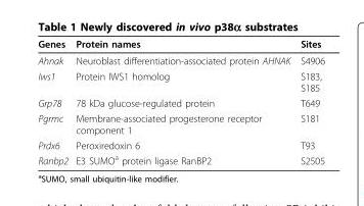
<table><thead><tr><td>Genes</td><td>Protein names</td><td>Sites</td></tr></thead><tbody><tr><td>Ahnak</td><td>Neuroblast differentiation-associated protein AHNAK</td><td>S4906</td></tr><tr><td>Iws1</td><td>Protein IWS1 homolog</td><td>S183, S185</td></tr><tr><td>Grp78</td><td>78 kDa glucose-regulated protein</td><td>T649</td></tr><tr><td>Pgrmc</td><td>Membrane-associated progesterone receptor component 1</td><td>S181</td></tr><tr><td>Prdx6</td><td>Peroxiredoxin 6</td><td>T93</td></tr><tr><td>Ranbp2</td><td>E3 SUMO<sup>a</sup> protein ligase RanBP2</td><td>S2505</td></tr></tbody></table>